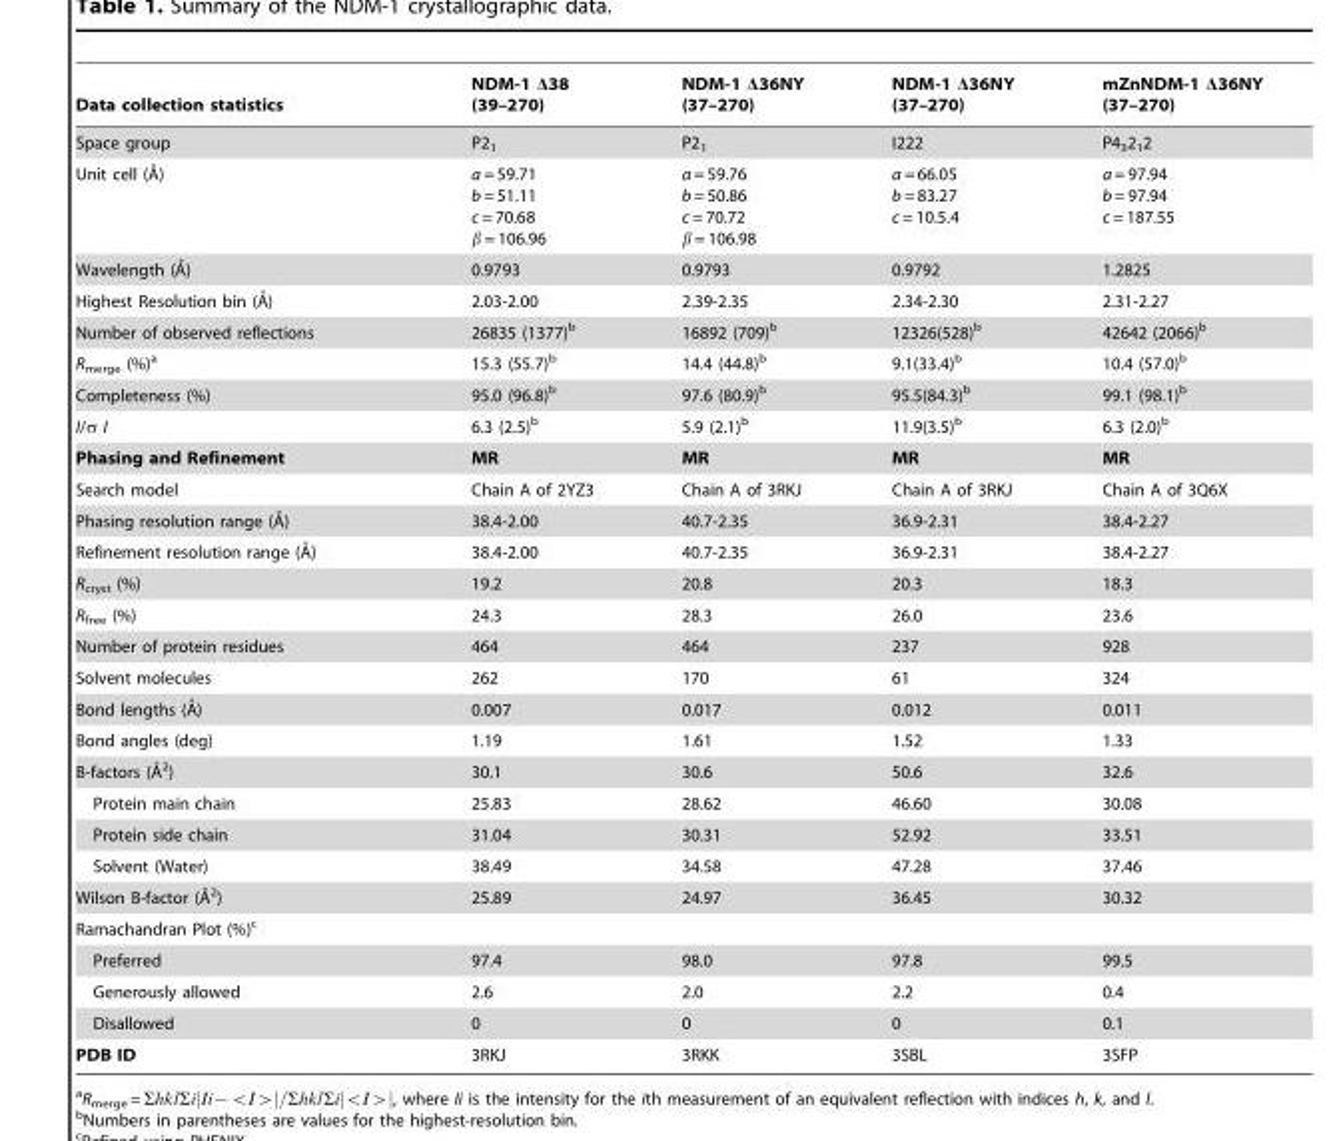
<table><thead><tr><td>Data collection statistics</td><td>NDM-1 Δ38 (39–270)</td><td>NDM-1 Δ36NY (37–270)</td><td>NDM-1 Δ36NY (37–270)</td><td>mZnNDM-1 Δ36NY (37–270)</td></tr></thead><tbody><tr><td>Space group</td><td>P2<sub>1</sub></td><td>P2<sub>1</sub></td><td>I222</td><td>P4<sub>3</sub>2<sub>1</sub>2</td></tr><tr><td>Unit cell (A˚)</td><td>a = 59.71 b = 51.11 c = 70.68 β = 106.96</td><td>a = 59.76 b = 50.86 c = 70.72 β = 106.98</td><td>a = 66.05 b = 83.27 c = 10.5.4</td><td>a = 97.94 b = 97.94 c = 187.55</td></tr><tr><td>Wavelength (A˚)</td><td>0.9793</td><td>0.9793</td><td>0.9792</td><td>1.2825</td></tr><tr><td>Highest Resolution bin (A˚)</td><td>2.03-2.00</td><td>2.39-2.35</td><td>2.34-2.30</td><td>2.31-2.27</td></tr><tr><td>Number of observed reflections</td><td>26835 (1377)<sup>b</sup></td><td>16892 (709)<sup>b</sup></td><td>12326(528)<sup>b</sup></td><td>42642 (2066)<sup>b</sup></td></tr><tr><td>R<sub>merge</sub> (%)<sup>a</sup></td><td>15.3 (55.7)<sup>b</sup></td><td>14.4 (44.8)<sup>b</sup></td><td>9.1(33.4)<sup>b</sup></td><td>10.4 (57.0)<sup>b</sup></td></tr><tr><td>Completeness (%)</td><td>95.0 (96.8)<sup>b</sup></td><td>97.6 (80.9)<sup>b</sup></td><td>95.5(84.3)<sup>b</sup></td><td>99.1 (98.1)<sup>b</sup></td></tr><tr><td>I/σ I</td><td>6.3 (2.5)<sup>b</sup></td><td>5.9 (2.1)<sup>b</sup></td><td>11.9(3.5)<sup>b</sup></td><td>6.3 (2.0)<sup>b</sup></td></tr><tr><td>Phasing and Refinement</td><td>MR</td><td>MR</td><td>MR</td><td>MR</td></tr><tr><td>Search model</td><td>Chain A of 2YZ3</td><td>Chain A of 3RKJ</td><td>Chain A of 3RKJ</td><td>Chain A of 3Q6X</td></tr><tr><td>Phasing resolution range (A˚)</td><td>38.4-2.00</td><td>40.7-2.35</td><td>36.9-2.31</td><td>38.4-2.27</td></tr><tr><td>Refinement resolution range (A˚)</td><td>38.4-2.00</td><td>40.7-2.35</td><td>36.9-2.31</td><td>38.4-2.27</td></tr><tr><td>R<sub>cryst</sub> (%)</td><td>19.2</td><td>20.8</td><td>20.3</td><td>18.3</td></tr><tr><td>R<sub>free</sub> (%)</td><td>24.3</td><td>28.3</td><td>26.0</td><td>23.6</td></tr><tr><td>Number of protein residues</td><td>464</td><td>464</td><td>237</td><td>928</td></tr><tr><td>Solvent molecules</td><td>262</td><td>170</td><td>61</td><td>324</td></tr><tr><td>Bond lengths (A˚)</td><td>0.007</td><td>0.017</td><td>0.012</td><td>0.011</td></tr><tr><td>Bond angles (deg)</td><td>1.19</td><td>1.61</td><td>1.52</td><td>1.33</td></tr><tr><td>B-factors (A˚ 2)</td><td>30.1</td><td>30.6</td><td>50.6</td><td>32.6</td></tr><tr><td>Protein main chain</td><td>25.83</td><td>28.62</td><td>46.60</td><td>30.08</td></tr><tr><td>Protein side chain</td><td>31.04</td><td>30.31</td><td>52.92</td><td>33.51</td></tr><tr><td>Solvent (Water)</td><td>38.49</td><td>34.58</td><td>47.28</td><td>37.46</td></tr><tr><td>Wilson B-factor (A˚2)</td><td>25.89</td><td>24.97</td><td>36.45</td><td>30.32</td></tr><tr><td colspan="5">Ramachandran Plot (%)<sup>c</sup></td></tr><tr><td>Preferred</td><td>97.4</td><td>98.0</td><td>97.8</td><td>99.5</td></tr><tr><td>Generously allowed</td><td>2.6</td><td>2.0</td><td>2.2</td><td>0.4</td></tr><tr><td>Disallowed</td><td>0</td><td>0</td><td>0</td><td>0.1</td></tr><tr><td>PDB ID</td><td>3RKJ</td><td>3RKK</td><td>3SBL</td><td>3SFP</td></tr></tbody></table>